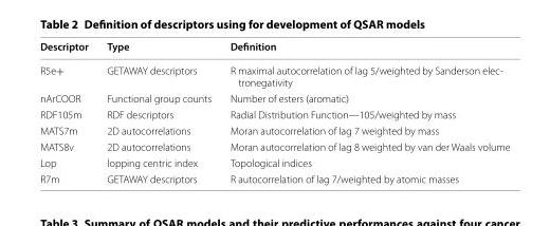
<table><thead><tr><td>Descriptor</td><td>Type</td><td>Definition</td></tr></thead><tbody><tr><td>R5e+</td><td>GETAWAY descriptors</td><td>R maximal autocorrelation of lag 5/weighted by Sanderson elec- tronegativity</td></tr><tr><td>nArCOOR</td><td>Functional group counts</td><td>Number of esters (aromatic)</td></tr><tr><td>RDF105m</td><td>RDF descriptors</td><td>Radial Distribution Function—105/weighted by mass</td></tr><tr><td>MATS7m</td><td>2D autocorrelations</td><td>Moran autocorrelation of lag 7 weighted by mass</td></tr><tr><td>MATS8v</td><td>2D autocorrelations</td><td>Moran autocorrelation of lag 8 weighted by van der Waals volume</td></tr><tr><td>Lop</td><td>lopping centric index</td><td>Topological indices</td></tr><tr><td>R7m</td><td>GETAWAY descriptors</td><td>R autocorrelation of lag 7/weighted by atomic masses</td></tr></tbody></table>